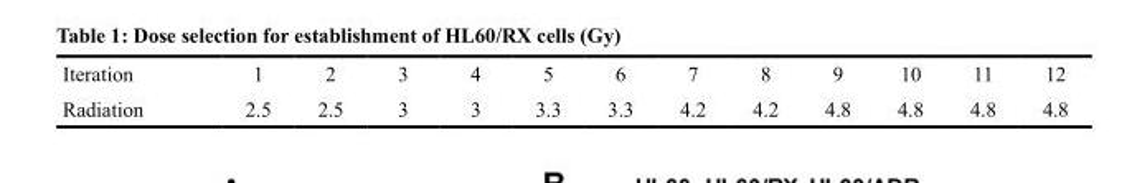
<table><tbody><tr><td>Iteration</td><td>1</td><td>2</td><td>3</td><td>4</td><td>5</td><td>6</td><td>7</td><td>8</td><td>9</td><td>10</td><td>11</td><td>12</td></tr><tr><td>Radiation</td><td>2.5</td><td>2.5</td><td>3</td><td>3</td><td>3.3</td><td>3.3</td><td>4.2</td><td>4.2</td><td>4.8</td><td>4.8</td><td>4.8</td><td>4.8</td></tr></tbody></table>